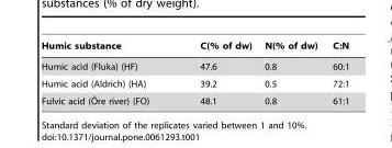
<table><thead><tr><td>Humic substance</td><td>C(% of dw)</td><td>N(% of dw)</td><td>C:N</td></tr></thead><tbody><tr><td>Humic acid (Fluka) (HF)</td><td>47.6</td><td>0.8</td><td>60:1</td></tr><tr><td>Humic acid (Aldrich) (HA)</td><td>39.2</td><td>0.5</td><td>72:1</td></tr><tr><td>Fulvic acid (O¨ re river) (FO)</td><td>48.1</td><td>0.8</td><td>61:1</td></tr></tbody></table>